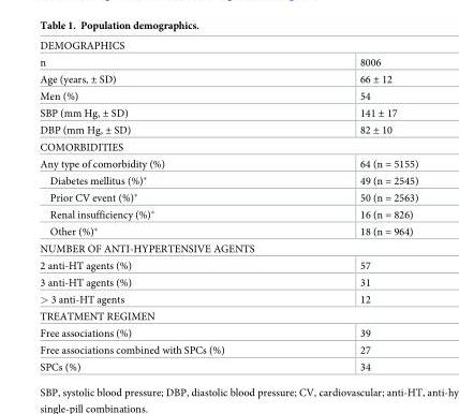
<table><tbody><tr><td colspan="2">DEMOGRAPHICS</td></tr><tr><td>n</td><td>8006</td></tr><tr><td>Age (years, ± SD)</td><td>66 ± 12</td></tr><tr><td>Men (%)</td><td>54</td></tr><tr><td>SBP (mm Hg, ± SD)</td><td>141 ± 17</td></tr><tr><td>DBP (mm Hg, ± SD)</td><td>82 ± 10</td></tr><tr><td colspan="2">COMORBIDITIES</td></tr><tr><td>Any type of comorbidity (%)</td><td>64 (n = 5155)</td></tr><tr><td>Diabetes mellitus (%)*</td><td>49 (n = 2545)</td></tr><tr><td>Prior CV event (%)*</td><td>50 (n = 2563)</td></tr><tr><td>Renal insufficiency (%)*</td><td>16 (n = 826)</td></tr><tr><td>Other (%)*</td><td>18 (n = 964)</td></tr><tr><td colspan="2">NUMBER OF ANTI-HYPERTENSIVE AGENTS</td></tr><tr><td>2 anti-HT agents (%)</td><td>57</td></tr><tr><td>3 anti-HT agents (%)</td><td>31</td></tr><tr><td>&gt; 3 anti-HT agents</td><td>12</td></tr><tr><td colspan="2">TREATMENT REGIMEN</td></tr><tr><td>Free associations (%)</td><td>39</td></tr><tr><td>Free associations combined with SPCs (%)</td><td>27</td></tr><tr><td>SPCs (%)</td><td>34</td></tr></tbody></table>